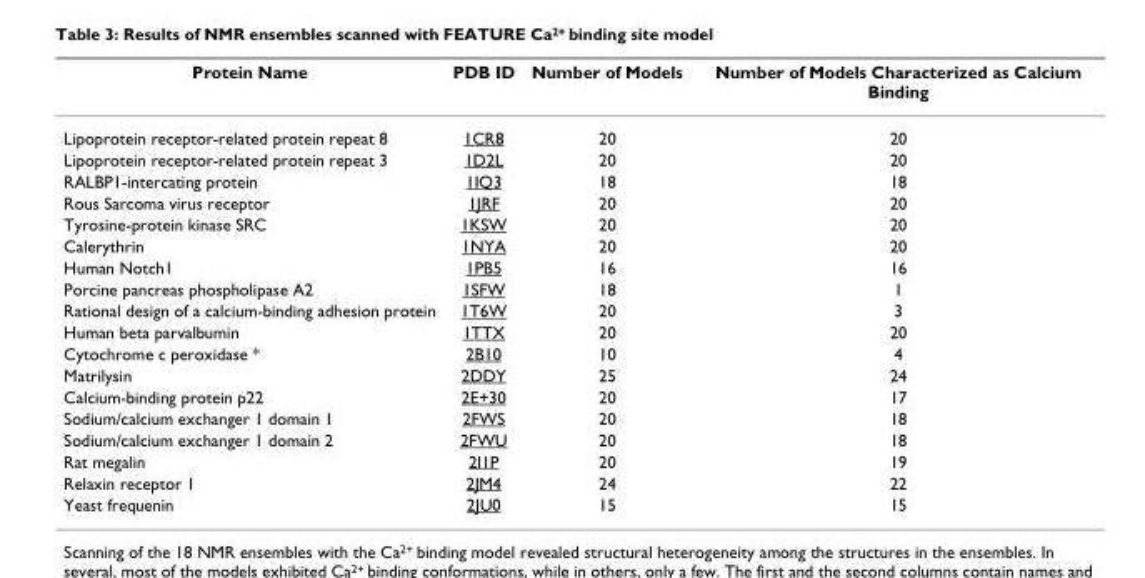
<table><thead><tr><td>Protein Name</td><td>PDB ID</td><td>Number of Models</td><td>Number of Models Characterized as Calcium Binding</td></tr></thead><tbody><tr><td>Lipoprotein receptor-related protein repeat 8</td><td>1CR8</td><td>20</td><td>20</td></tr><tr><td>Lipoprotein receptor-related protein repeat 3</td><td>1D2L</td><td>20</td><td>20</td></tr><tr><td>RALBP1-intercating protein</td><td>1IQ3</td><td>18</td><td>18</td></tr><tr><td>Rous Sarcoma virus receptor</td><td>1JRF</td><td>20</td><td>20</td></tr><tr><td>Tyrosine-protein kinase SRC</td><td>1KSW</td><td>20</td><td>20</td></tr><tr><td>Calerythrin</td><td>1NYA</td><td>20</td><td>20</td></tr><tr><td>Human Notch1</td><td>1PB5</td><td>16</td><td>16</td></tr><tr><td>Porcine pancreas phospholipase A2</td><td>1SFW</td><td>18</td><td>1</td></tr><tr><td>Rational design of a calcium-binding adhesion protein</td><td>1T6W</td><td>20</td><td>3</td></tr><tr><td>Human beta parvalbumin</td><td>1TTX</td><td>20</td><td>20</td></tr><tr><td>Cytochrome c peroxidase *</td><td>2B10</td><td>10</td><td>4</td></tr><tr><td>Matrilysin</td><td>2DDY</td><td>25</td><td>24</td></tr><tr><td>Calcium-binding protein p22</td><td>2E+30</td><td>20</td><td>17</td></tr><tr><td>Sodium/calcium exchanger 1 domain 1</td><td>2FWS</td><td>20</td><td>18</td></tr><tr><td>Sodium/calcium exchanger 1 domain 2</td><td>2FWU</td><td>20</td><td>18</td></tr><tr><td>Rat megalin</td><td>2I1P</td><td>20</td><td>19</td></tr><tr><td>Relaxin receptor 1</td><td>2JM4</td><td>24</td><td>22</td></tr><tr><td>Yeast frequenin</td><td>2JU0</td><td>15</td><td>15</td></tr></tbody></table>